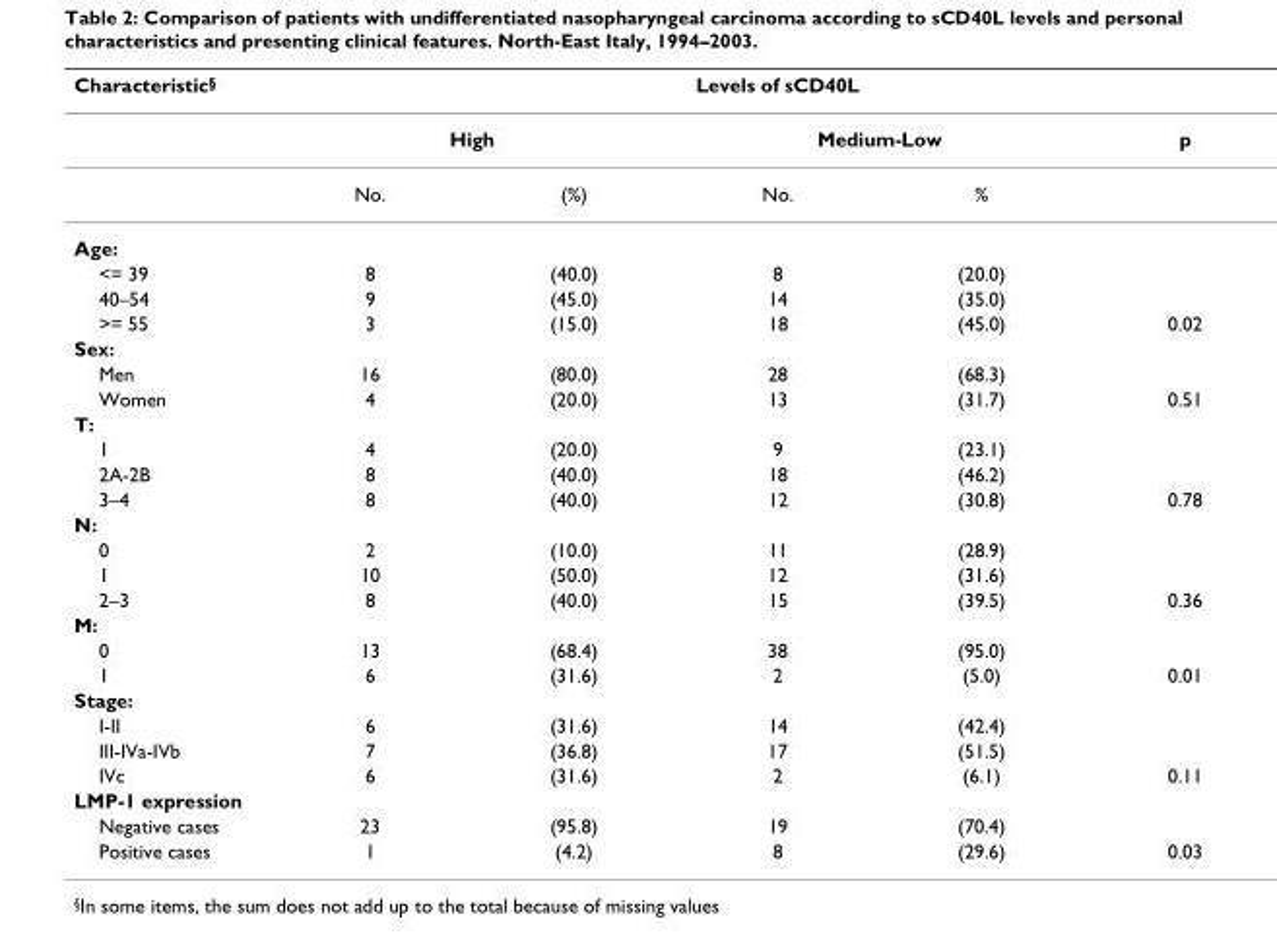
<table><thead><tr><td rowspan="3">Characteristic<sup>§</sup></td><td colspan="5">Levels of sCD40L</td></tr><tr><td colspan="2">High</td><td colspan="2">Medium-Low</td><td rowspan="2">p</td></tr><tr><td>No.</td><td>(%)</td><td>No.</td><td>%</td></tr></thead><tbody><tr><td colspan="6">Age:</td></tr><tr><td>&lt;= 39</td><td>8</td><td>(40.0)</td><td>8</td><td>(20.0)</td><td></td></tr><tr><td>40–54</td><td>9</td><td>(45.0)</td><td>14</td><td>(35.0)</td><td></td></tr><tr><td>&gt;= 55</td><td>3</td><td>(15.0)</td><td>18</td><td>(45.0)</td><td>0.02</td></tr><tr><td colspan="6">Sex:</td></tr><tr><td>Men</td><td>16</td><td>(80.0)</td><td>28</td><td>(68.3)</td><td></td></tr><tr><td>Women</td><td>4</td><td>(20.0)</td><td>13</td><td>(31.7)</td><td>0.51</td></tr><tr><td colspan="6">T:</td></tr><tr><td>1</td><td>4</td><td>(20.0)</td><td>9</td><td>(23.1)</td><td></td></tr><tr><td>2A-2B</td><td>8</td><td>(40.0)</td><td>18</td><td>(46.2)</td><td></td></tr><tr><td>3–4</td><td>8</td><td>(40.0)</td><td>12</td><td>(30.8)</td><td>0.78</td></tr><tr><td colspan="6">N:</td></tr><tr><td>0</td><td>2</td><td>(10.0)</td><td>11</td><td>(28.9)</td><td></td></tr><tr><td>1</td><td>10</td><td>(50.0)</td><td>12</td><td>(31.6)</td><td></td></tr><tr><td>2–3</td><td>8</td><td>(40.0)</td><td>15</td><td>(39.5)</td><td>0.36</td></tr><tr><td colspan="6">M:</td></tr><tr><td>0</td><td>13</td><td>(68.4)</td><td>38</td><td>(95.0)</td><td></td></tr><tr><td>1</td><td>6</td><td>(31.6)</td><td>2</td><td>(5.0)</td><td>0.01</td></tr><tr><td colspan="6">Stage:</td></tr><tr><td>I-II</td><td>6</td><td>(31.6)</td><td>14</td><td>(42.4)</td><td></td></tr><tr><td>III-IVa-IVb</td><td>7</td><td>(36.8)</td><td>17</td><td>(51.5)</td><td></td></tr><tr><td>IVc</td><td>6</td><td>(31.6)</td><td>2</td><td>(6.1)</td><td>0.11</td></tr><tr><td colspan="6">LMP-1 expression</td></tr><tr><td>Negative cases</td><td>23</td><td>(95.8)</td><td>19</td><td>(70.4)</td><td></td></tr><tr><td>Positive cases</td><td>1</td><td>(4.2)</td><td>8</td><td>(29.6)</td><td>0.03</td></tr></tbody></table>